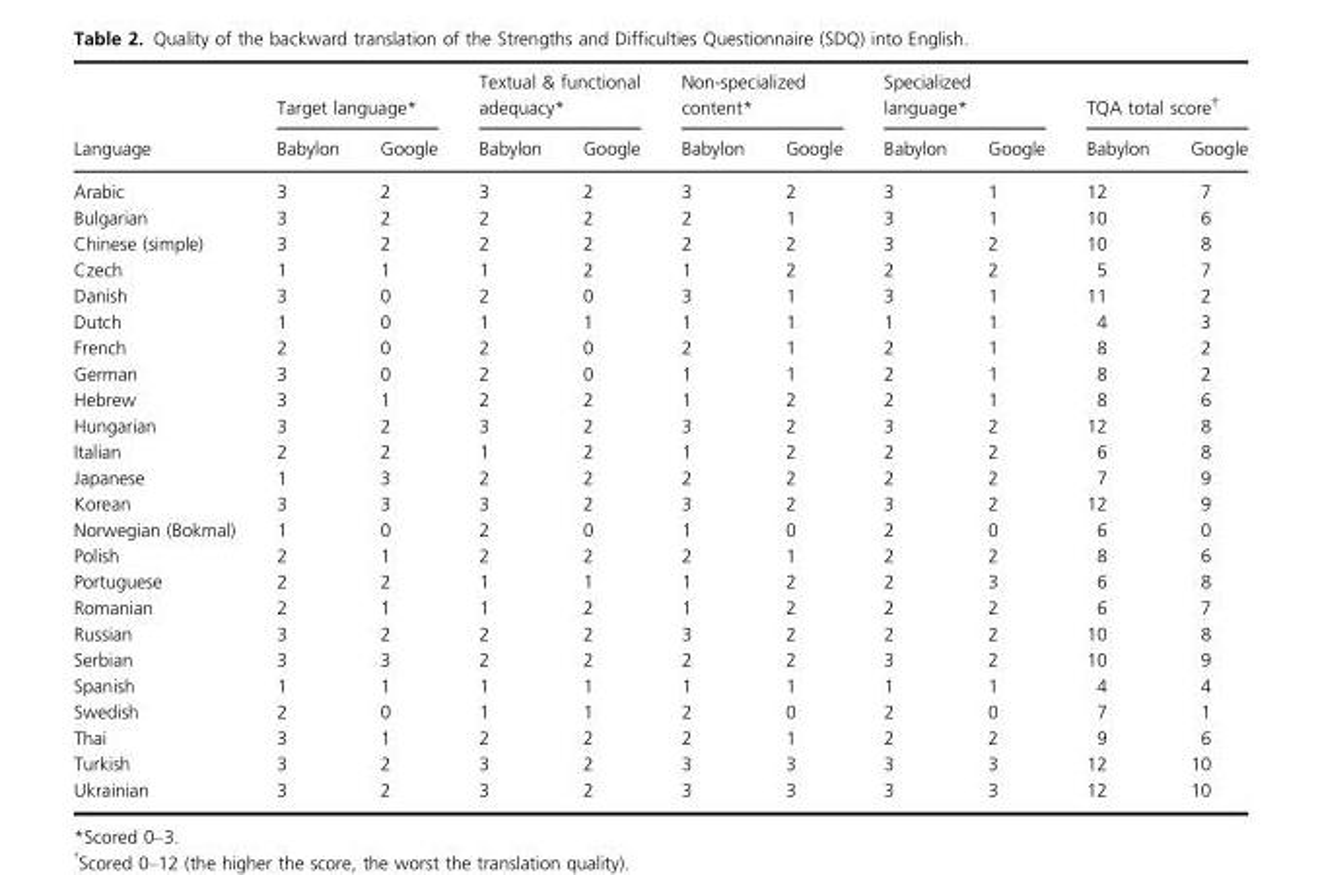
<table><thead><tr><td rowspan="2">Language</td><td colspan="2">Target language*</td><td colspan="2">Textual &amp; functional adequacy*</td><td colspan="2">Non-specialized content*</td><td colspan="2">Specialized language*</td><td colspan="2">TQA total score†</td></tr><tr><td>Babylon</td><td>Google</td><td>Babylon</td><td>Google</td><td>Babylon</td><td>Google</td><td>Babylon</td><td>Google</td><td>Babylon</td><td>Google</td></tr></thead><tbody><tr><td>Arabic</td><td>3</td><td>2</td><td>3</td><td>2</td><td>3</td><td>2</td><td>3</td><td>1</td><td>12</td><td>7</td></tr><tr><td>Bulgarian</td><td>3</td><td>2</td><td>2</td><td>2</td><td>2</td><td>1</td><td>3</td><td>1</td><td>10</td><td>6</td></tr><tr><td>Chinese (simple)</td><td>3</td><td>2</td><td>2</td><td>2</td><td>2</td><td>2</td><td>3</td><td>2</td><td>10</td><td>8</td></tr><tr><td>Czech</td><td>1</td><td>1</td><td>1</td><td>2</td><td>1</td><td>2</td><td>2</td><td>2</td><td>5</td><td>7</td></tr><tr><td>Danish</td><td>3</td><td>0</td><td>2</td><td>0</td><td>3</td><td>1</td><td>3</td><td>1</td><td>11</td><td>2</td></tr><tr><td>Dutch</td><td>1</td><td>0</td><td>1</td><td>1</td><td>1</td><td>1</td><td>1</td><td>1</td><td>4</td><td>3</td></tr><tr><td>French</td><td>2</td><td>0</td><td>2</td><td>0</td><td>2</td><td>1</td><td>2</td><td>1</td><td>8</td><td>2</td></tr><tr><td>German</td><td>3</td><td>0</td><td>2</td><td>0</td><td>1</td><td>1</td><td>2</td><td>1</td><td>8</td><td>2</td></tr><tr><td>Hebrew</td><td>3</td><td>1</td><td>2</td><td>2</td><td>1</td><td>2</td><td>2</td><td>1</td><td>8</td><td>6</td></tr><tr><td>Hungarian</td><td>3</td><td>2</td><td>3</td><td>2</td><td>3</td><td>2</td><td>3</td><td>2</td><td>12</td><td>8</td></tr><tr><td>Italian</td><td>2</td><td>2</td><td>1</td><td>2</td><td>1</td><td>2</td><td>2</td><td>2</td><td>6</td><td>8</td></tr><tr><td>Japanese</td><td>1</td><td>3</td><td>2</td><td>2</td><td>2</td><td>2</td><td>2</td><td>2</td><td>7</td><td>9</td></tr><tr><td>Korean</td><td>3</td><td>3</td><td>3</td><td>2</td><td>3</td><td>2</td><td>3</td><td>2</td><td>12</td><td>9</td></tr><tr><td>Norwegian (Bokmal)</td><td>1</td><td>0</td><td>2</td><td>0</td><td>1</td><td>0</td><td>2</td><td>0</td><td>6</td><td>0</td></tr><tr><td>Polish</td><td>2</td><td>1</td><td>2</td><td>2</td><td>2</td><td>1</td><td>2</td><td>2</td><td>8</td><td>6</td></tr><tr><td>Portuguese</td><td>2</td><td>2</td><td>1</td><td>1</td><td>1</td><td>2</td><td>2</td><td>3</td><td>6</td><td>8</td></tr><tr><td>Romanian</td><td>2</td><td>1</td><td>1</td><td>2</td><td>1</td><td>2</td><td>2</td><td>2</td><td>6</td><td>7</td></tr><tr><td>Russian</td><td>3</td><td>2</td><td>2</td><td>2</td><td>3</td><td>2</td><td>2</td><td>2</td><td>10</td><td>8</td></tr><tr><td>Serbian</td><td>3</td><td>3</td><td>2</td><td>2</td><td>2</td><td>2</td><td>3</td><td>2</td><td>10</td><td>9</td></tr><tr><td>Spanish</td><td>1</td><td>1</td><td>1</td><td>1</td><td>1</td><td>1</td><td>1</td><td>1</td><td>4</td><td>4</td></tr><tr><td>Swedish</td><td>2</td><td>0</td><td>1</td><td>1</td><td>2</td><td>0</td><td>2</td><td>0</td><td>7</td><td>1</td></tr><tr><td>Thai</td><td>3</td><td>1</td><td>2</td><td>2</td><td>2</td><td>1</td><td>2</td><td>2</td><td>9</td><td>6</td></tr><tr><td>Turkish</td><td>3</td><td>2</td><td>3</td><td>2</td><td>3</td><td>3</td><td>3</td><td>3</td><td>12</td><td>10</td></tr><tr><td>Ukrainian</td><td>3</td><td>2</td><td>3</td><td>2</td><td>3</td><td>3</td><td>3</td><td>3</td><td>12</td><td>10</td></tr></tbody></table>